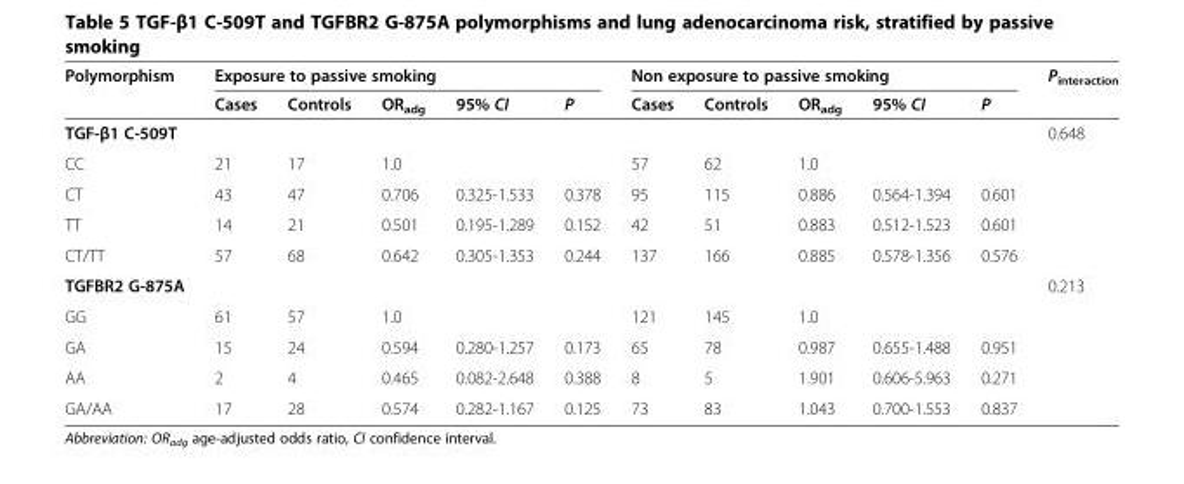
<table><thead><tr><td rowspan="2">Polymorphism</td><td colspan="5">Exposure to passive smoking</td><td colspan="5">Non exposure to passive smoking</td><td rowspan="2">P<sub>interaction</sub></td></tr><tr><td>Cases</td><td>Controls</td><td>OR<sub>adg</sub></td><td>95% CI</td><td>P</td><td>Cases</td><td>Controls</td><td>OR<sub>adg</sub></td><td>95% CI</td><td>P</td></tr></thead><tbody><tr><td>TGF-β1 C-509T</td><td></td><td></td><td></td><td></td><td></td><td></td><td></td><td></td><td></td><td></td><td>0.648</td></tr><tr><td>CC</td><td>21</td><td>17</td><td>1.0</td><td></td><td></td><td>57</td><td>62</td><td>1.0</td><td></td><td></td><td></td></tr><tr><td>CT</td><td>43</td><td>47</td><td>0.706</td><td>0.325-1.533</td><td>0.378</td><td>95</td><td>115</td><td>0.886</td><td>0.564-1.394</td><td>0.601</td><td></td></tr><tr><td>TT</td><td>14</td><td>21</td><td>0.501</td><td>0.195-1.289</td><td>0.152</td><td>42</td><td>51</td><td>0.883</td><td>0.512-1.523</td><td>0.601</td><td></td></tr><tr><td>CT/TT</td><td>57</td><td>68</td><td>0.642</td><td>0.305-1.353</td><td>0.244</td><td>137</td><td>166</td><td>0.885</td><td>0.578-1.356</td><td>0.576</td><td></td></tr><tr><td>TGFBR2 G-875A</td><td></td><td></td><td></td><td></td><td></td><td></td><td></td><td></td><td></td><td></td><td>0.213</td></tr><tr><td>GG</td><td>61</td><td>57</td><td>1.0</td><td></td><td></td><td>121</td><td>145</td><td>1.0</td><td></td><td></td><td></td></tr><tr><td>GA</td><td>15</td><td>24</td><td>0.594</td><td>0.280-1.257</td><td>0.173</td><td>65</td><td>78</td><td>0.987</td><td>0.655-1.488</td><td>0.951</td><td></td></tr><tr><td>AA</td><td>2</td><td>4</td><td>0.465</td><td>0.082-2.648</td><td>0.388</td><td>8</td><td>5</td><td>1.901</td><td>0.606-5.963</td><td>0.271</td><td></td></tr><tr><td>GA/AA</td><td>17</td><td>28</td><td>0.574</td><td>0.282-1.167</td><td>0.125</td><td>73</td><td>83</td><td>1.043</td><td>0.700-1.553</td><td>0.837</td><td></td></tr></tbody></table>